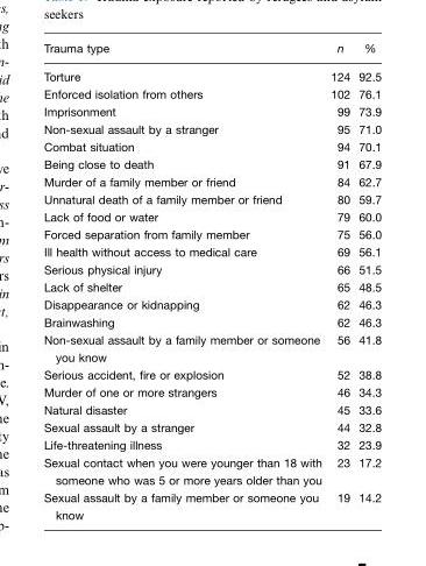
<table><thead><tr><td>Trauma type</td><td>n</td><td>%</td></tr></thead><tbody><tr><td>Torture</td><td>124</td><td>92.5</td></tr><tr><td>Enforced isolation from others</td><td>102</td><td>76.1</td></tr><tr><td>Imprisonment</td><td>99</td><td>73.9</td></tr><tr><td>Non-sexual assault by a stranger</td><td>95</td><td>71.0</td></tr><tr><td>Combat situation</td><td>94</td><td>70.1</td></tr><tr><td>Being close to death</td><td>91</td><td>67.9</td></tr><tr><td>Murder of a family member or friend</td><td>84</td><td>62.7</td></tr><tr><td>Unnatural death of a family member or friend</td><td>80</td><td>59.7</td></tr><tr><td>Lack of food or water</td><td>79</td><td>60.0</td></tr><tr><td>Forced separation from family member</td><td>75</td><td>56.0</td></tr><tr><td>Ill health without access to medical care</td><td>69</td><td>56.1</td></tr><tr><td>Serious physical injury</td><td>66</td><td>51.5</td></tr><tr><td>Lack of shelter</td><td>65</td><td>48.5</td></tr><tr><td>Disappearance or kidnapping</td><td>62</td><td>46.3</td></tr><tr><td>Brainwashing</td><td>62</td><td>46.3</td></tr><tr><td>Non-sexual assault by a family member or someone you know</td><td>56</td><td>41.8</td></tr><tr><td>Serious accident, fire or explosion</td><td>52</td><td>38.8</td></tr><tr><td>Murder of one or more strangers</td><td>46</td><td>34.3</td></tr><tr><td>Natural disaster</td><td>45</td><td>33.6</td></tr><tr><td>Sexual assault by a stranger</td><td>44</td><td>32.8</td></tr><tr><td>Life-threatening illness</td><td>32</td><td>23.9</td></tr><tr><td>Sexual contact when you were younger than 18 with someone who was 5 or more years older than you</td><td>23</td><td>17.2</td></tr><tr><td>Sexual assault by a family member or someone you know</td><td>19</td><td>14.2</td></tr></tbody></table>